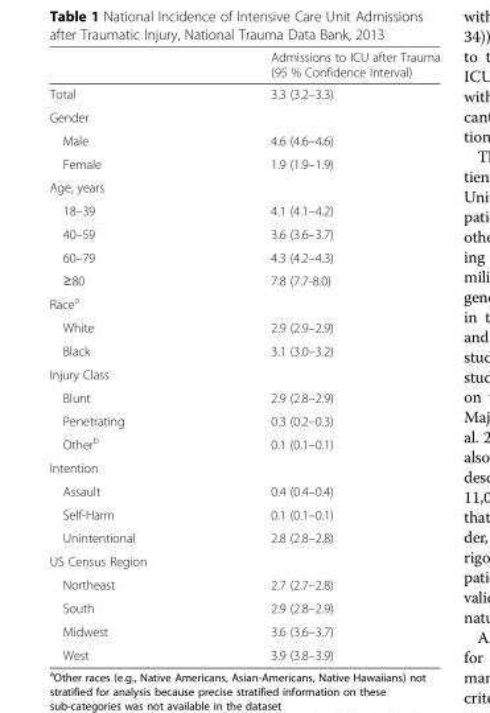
<table><thead><tr><td></td><td>Admissions to ICU after Trauma (95 % Confidence Interval)</td></tr></thead><tbody><tr><td>Total</td><td>3.3 (3.2–3.3)</td></tr><tr><td colspan="2">Gender</td></tr><tr><td>Male</td><td>4.6 (4.6–4.6)</td></tr><tr><td>Female</td><td>1.9 (1.9–1.9)</td></tr><tr><td colspan="2">Age, years</td></tr><tr><td>18–39</td><td>4.1 (4.1–4.2)</td></tr><tr><td>40–59</td><td>3.6 (3.6–3.7)</td></tr><tr><td>60–79</td><td>4.3 (4.2–4.3)</td></tr><tr><td>≥80</td><td>7.8 (7.7-8.0)</td></tr><tr><td colspan="2">Race<sup>a</sup></td></tr><tr><td>White</td><td>2.9 (2.9–2.9)</td></tr><tr><td>Black</td><td>3.1 (3.0–3.2)</td></tr><tr><td colspan="2">Injury Class</td></tr><tr><td>Blunt</td><td>2.9 (2.8–2.9)</td></tr><tr><td>Penetrating</td><td>0.3 (0.2–0.3)</td></tr><tr><td>Other<sup>b</sup></td><td>0.1 (0.1–0.1)</td></tr><tr><td colspan="2">Intention</td></tr><tr><td>Assault</td><td>0.4 (0.4–0.4)</td></tr><tr><td>Self-Harm</td><td>0.1 (0.1–0.1)</td></tr><tr><td>Unintentional</td><td>2.8 (2.8–2.8)</td></tr><tr><td colspan="2">US Census Region</td></tr><tr><td>Northeast</td><td>2.7 (2.7–2.8)</td></tr><tr><td>South</td><td>2.9 (2.8–2.9)</td></tr><tr><td>Midwest</td><td>3.6 (3.6–3.7)</td></tr><tr><td>West</td><td>3.9 (3.8–3.9)</td></tr></tbody></table>